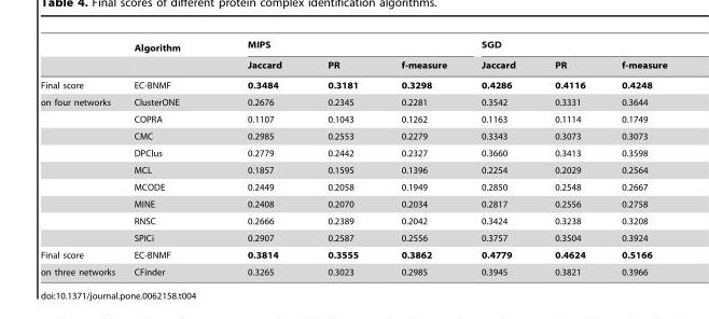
<table><thead><tr><td rowspan="2"></td><td rowspan="2">Algorithm</td><td colspan="3">MIPS</td><td colspan="3">SGD</td></tr><tr><td>Jaccard</td><td>PR</td><td>f-measure</td><td>Jaccard</td><td>PR</td><td>f-measure</td></tr></thead><tbody><tr><td>Final score</td><td>EC-BNMF</td><td>0.3484</td><td>0.3181</td><td>0.3298</td><td>0.4286</td><td>0.4116</td><td>0.4248</td></tr><tr><td rowspan="9">on four networks</td><td>ClusterONE</td><td>0.2676</td><td>0.2345</td><td>0.2281</td><td>0.3542</td><td>0.3331</td><td>0.3644</td></tr><tr><td>COPRA</td><td>0.1107</td><td>0.1043</td><td>0.1262</td><td>0.1163</td><td>0.1114</td><td>0.1749</td></tr><tr><td>CMC</td><td>0.2985</td><td>0.2553</td><td>0.2279</td><td>0.3343</td><td>0.3073</td><td>0.3073</td></tr><tr><td>DPClus</td><td>0.2779</td><td>0.2442</td><td>0.2327</td><td>0.3660</td><td>0.3413</td><td>0.3598</td></tr><tr><td>MCL</td><td>0.1857</td><td>0.1595</td><td>0.1396</td><td>0.2254</td><td>0.2029</td><td>0.2564</td></tr><tr><td>MCODE</td><td>0.2449</td><td>0.2058</td><td>0.1949</td><td>0.2850</td><td>0.2548</td><td>0.2667</td></tr><tr><td>MINE</td><td>0.2408</td><td>0.2070</td><td>0.2034</td><td>0.2817</td><td>0.2556</td><td>0.2758</td></tr><tr><td>RNSC</td><td>0.2666</td><td>0.2389</td><td>0.2042</td><td>0.3424</td><td>0.3238</td><td>0.3208</td></tr><tr><td>SPICi</td><td>0.2907</td><td>0.2587</td><td>0.2556</td><td>0.3757</td><td>0.3504</td><td>0.3924</td></tr><tr><td>Final score</td><td>EC-BNMF</td><td>0.3814</td><td>0.3555</td><td>0.3862</td><td>0.4779</td><td>0.4624</td><td>0.5166</td></tr><tr><td>on three networks</td><td>CFinder</td><td>0.3265</td><td>0.3023</td><td>0.2985</td><td>0.3945</td><td>0.3821</td><td>0.3966</td></tr></tbody></table>